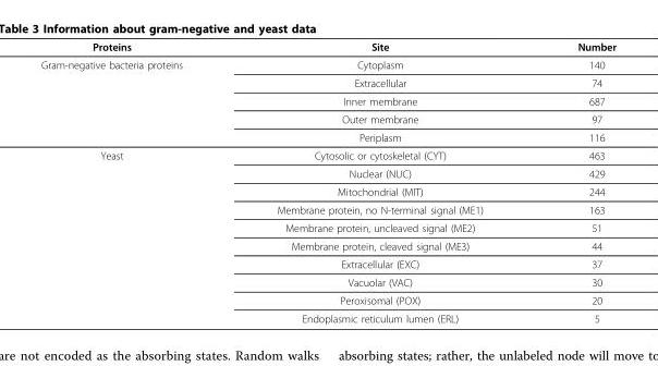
<table><thead><tr><td>Proteins</td><td>Site</td><td>Number</td></tr></thead><tbody><tr><td rowspan="5">Gram-negative bacteria proteins</td><td>Cytoplasm</td><td>140</td></tr><tr><td>Extracellular</td><td>74</td></tr><tr><td>Inner membrane</td><td>687</td></tr><tr><td>Outer membrane</td><td>97</td></tr><tr><td>Periplasm</td><td>116</td></tr><tr><td rowspan="10">Yeast</td><td>Cytosolic or cytoskeletal (CYT)</td><td>463</td></tr><tr><td>Nuclear (NUC)</td><td>429</td></tr><tr><td>Mitochondrial (MIT)</td><td>244</td></tr><tr><td>Membrane protein, no N-terminal signal (ME1)</td><td>163</td></tr><tr><td>Membrane protein, uncleaved signal (ME2)</td><td>51</td></tr><tr><td>Membrane protein, cleaved signal (ME3)</td><td>44</td></tr><tr><td>Extracellular (EXC)</td><td>37</td></tr><tr><td>Vacuolar (VAC)</td><td>30</td></tr><tr><td>Peroxisomal (POX)</td><td>20</td></tr><tr><td>Endoplasmic reticulum lumen (ERL)</td><td>5</td></tr></tbody></table>